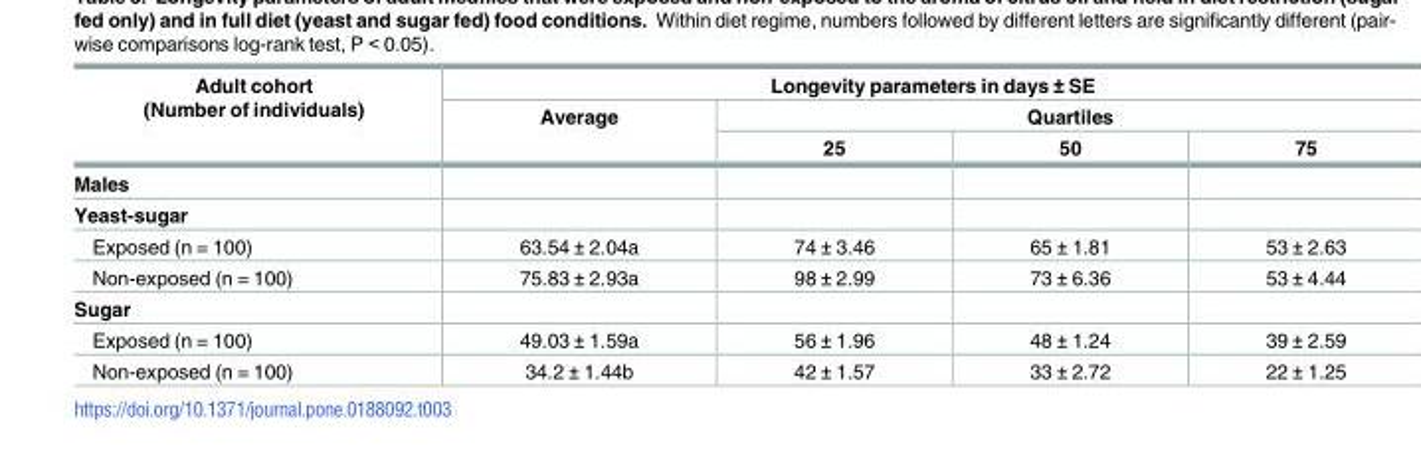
<table><thead><tr><td rowspan="3">Adult cohort (Number of individuals)</td><td colspan="4">Longevity parameters in days ± SE</td></tr><tr><td rowspan="2">Average</td><td colspan="3">Quartiles</td></tr><tr><td>25</td><td>50</td><td>75</td></tr></thead><tbody><tr><td colspan="5">Males</td></tr><tr><td colspan="5">Yeast-sugar</td></tr><tr><td>Exposed (n = 100)</td><td>63.54 ± 2.04a</td><td>74 ± 3.46</td><td>65 ± 1.81</td><td>53 ± 2.63</td></tr><tr><td>Non-exposed (n = 100)</td><td>75.83 ± 2.93a</td><td>98 ± 2.99</td><td>73 ± 6.36</td><td>53 ± 4.44</td></tr><tr><td colspan="5">Sugar</td></tr><tr><td>Exposed (n = 100)</td><td>49.03 ± 1.59a</td><td>56 ± 1.96</td><td>48 ± 1.24</td><td>39 ± 2.59</td></tr><tr><td>Non-exposed (n = 100)</td><td>34.2 ± 1.44b</td><td>42 ± 1.57</td><td>33 ± 2.72</td><td>22 ± 1.25</td></tr></tbody></table>